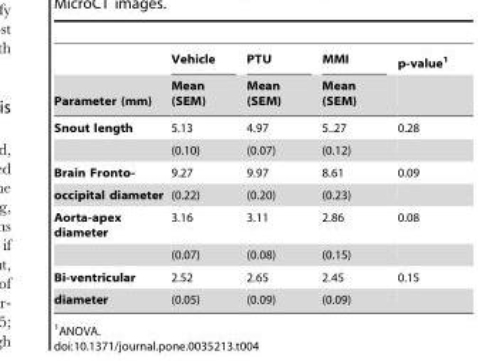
<table><thead><tr><td rowspan="2">Parameter (mm)</td><td rowspan="2">Vehicle Mean (SEM)</td><td rowspan="2">PTU Mean (SEM)</td><td rowspan="2">MMI Mean (SEM)</td><td rowspan="2">p-value<sup>1</sup></td></tr><tr></tr></thead><tbody><tr><td rowspan="2">Snout length</td><td>5.13</td><td>4.97</td><td>5..27</td><td>0.28</td></tr><tr><td>(0.10)</td><td>(0.07)</td><td>(0.12)</td><td></td></tr><tr><td>Brain Fronto-</td><td>9.27</td><td>9.97</td><td>8.61</td><td>0.09</td></tr><tr><td>occipital diameter</td><td>(0.22)</td><td>(0.20)</td><td>(0.23)</td><td></td></tr><tr><td rowspan="2">Aorta-apex diameter</td><td>3.16</td><td>3.11</td><td>2.86</td><td>0.08</td></tr><tr><td>(0.07)</td><td>(0.08)</td><td>(0.15)</td><td></td></tr><tr><td>Bi-ventricular</td><td>2.52</td><td>2.65</td><td>2.45</td><td>0.15</td></tr><tr><td>diameter</td><td>(0.05)</td><td>(0.09)</td><td>(0.09)</td><td></td></tr></tbody></table>